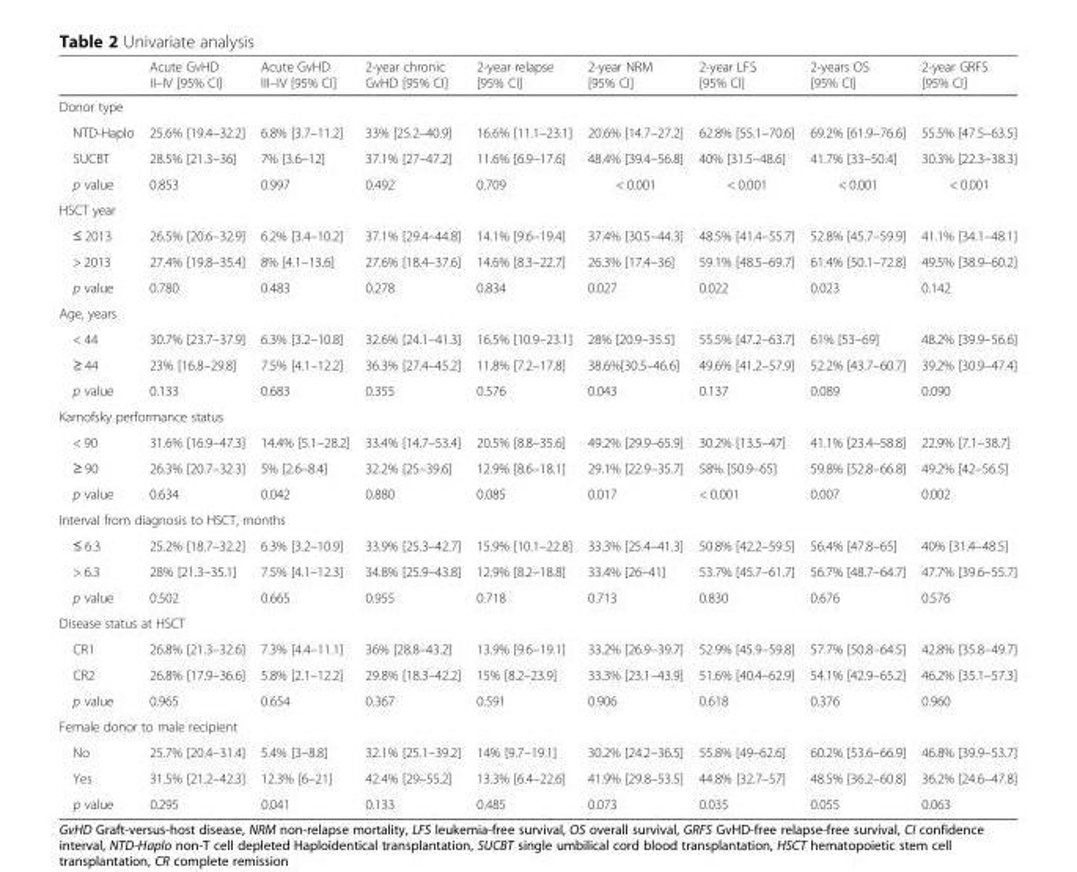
<table><thead><tr><td></td><td>Acute GvHD II–IV [95% CI]</td><td>Acute GvHD III–IV [95% CI]</td><td>2-year chronic GvHD [95% CI]</td><td>2-year relapse [95% CI]</td><td>2-year NRM [95% CI]</td><td>2-year LFS [95% CI]</td><td>2-years OS [95% CI]</td><td>2-year GRFS [95% CI]</td></tr></thead><tbody><tr><td colspan="9">Donor type</td></tr><tr><td>NTD-Haplo</td><td>25.6% [19.4–32.2]</td><td>6.8% [3.7–11.2]</td><td>33% [25.2–40.9]</td><td>16.6% [11.1–23.1]</td><td>20.6% [14.7–27.2]</td><td>62.8% [55.1–70.6]</td><td>69.2% [61.9–76.6]</td><td>55.5% [47.5–63.5]</td></tr><tr><td>SUCBT</td><td>28.5% [21.3–36]</td><td>7% [3.6–12]</td><td>37.1% [27–47.2]</td><td>11.6% [6.9–17.6]</td><td>48.4% [39.4–56.8]</td><td>40% [31.5–48.6]</td><td>41.7% [33–50.4]</td><td>30.3% [22.3–38.3]</td></tr><tr><td>p value</td><td>0.853</td><td>0.997</td><td>0.492</td><td>0.709</td><td>&lt; 0.001</td><td>&lt; 0.001</td><td>&lt; 0.001</td><td>&lt; 0.001</td></tr><tr><td colspan="9">HSCT year</td></tr><tr><td>≤ 2013</td><td>26.5% [20.6–32.9]</td><td>6.2% [3.4–10.2]</td><td>37.1% [29.4–44.8]</td><td>14.1% [9.6–19.4]</td><td>37.4% [30.5–44.3]</td><td>48.5% [41.4–55.7]</td><td>52.8% [45.7–59.9]</td><td>41.1% [34.1–48.1]</td></tr><tr><td>&gt; 2013</td><td>27.4% [19.8–35.4]</td><td>8% [4.1–13.6]</td><td>27.6% [18.4–37.6]</td><td>14.6% [8.3–22.7]</td><td>26.3% [17.4–36]</td><td>59.1% [48.5–69.7]</td><td>61.4% [50.1–72.8]</td><td>49.5% [38.9–60.2]</td></tr><tr><td>p value</td><td>0.780</td><td>0.483</td><td>0.278</td><td>0.834</td><td>0.027</td><td>0.022</td><td>0.023</td><td>0.142</td></tr><tr><td colspan="9">Age, years</td></tr><tr><td>&lt; 44</td><td>30.7% [23.7–37.9]</td><td>6.3% [3.2–10.8]</td><td>32.6% [24.1–41.3]</td><td>16.5% [10.9–23.1]</td><td>28% [20.9–35.5]</td><td>55.5% [47.2–63.7]</td><td>61% [53–69]</td><td>48.2% [39.9–56.6]</td></tr><tr><td>≥ 44</td><td>23% [16.8–29.8]</td><td>7.5% [4.1–12.2]</td><td>36.3% [27.4–45.2]</td><td>11.8% [7.2–17.8]</td><td>38.6%[30.5–46.6]</td><td>49.6% [41.2–57.9]</td><td>52.2% [43.7–60.7]</td><td>39.2% [30.9–47.4]</td></tr><tr><td>p value</td><td>0.133</td><td>0.683</td><td>0.355</td><td>0.576</td><td>0.043</td><td>0.137</td><td>0.089</td><td>0.090</td></tr><tr><td colspan="9">Karnofsky performance status</td></tr><tr><td>&lt; 90</td><td>31.6% [16.9–47.3]</td><td>14.4% [5.1–28.2]</td><td>33.4% [14.7–53.4]</td><td>20.5% [8.8–35.6]</td><td>49.2% [29.9–65.9]</td><td>30.2% [13.5–47]</td><td>41.1% [23.4–58.8]</td><td>22.9% [7.1–38.7]</td></tr><tr><td>≥ 90</td><td>26.3% [20.7–32.3]</td><td>5% [2.6–8.4]</td><td>32.2% [25–39.6]</td><td>12.9% [8.6–18.1]</td><td>29.1% [22.9–35.7]</td><td>58% [50.9–65]</td><td>59.8% [52.8–66.8]</td><td>49.2% [42–56.5]</td></tr><tr><td>p value</td><td>0.634</td><td>0.042</td><td>0.880</td><td>0.085</td><td>0.017</td><td>&lt; 0.001</td><td>0.007</td><td>0.002</td></tr><tr><td colspan="9">Interval from diagnosis to HSCT, months</td></tr><tr><td>≤ 6.3</td><td>25.2% [18.7–32.2]</td><td>6.3% [3.2–10.9]</td><td>33.9% [25.3–42.7]</td><td>15.9% [10.1–22.8]</td><td>33.3% [25.4–41.3]</td><td>50.8% [42.2–59.5]</td><td>56.4% [47.8–65]</td><td>40% [31.4–48.5]</td></tr><tr><td>&gt; 6.3</td><td>28% [21.3–35.1]</td><td>7.5% [4.1–12.3]</td><td>34.8% [25.9–43.8]</td><td>12.9% [8.2–18.8]</td><td>33.4% [26–41]</td><td>53.7% [45.7–61.7]</td><td>56.7% [48.7–64.7]</td><td>47.7% [39.6–55.7]</td></tr><tr><td>p value</td><td>0.502</td><td>0.665</td><td>0.955</td><td>0.718</td><td>0.713</td><td>0.830</td><td>0.676</td><td>0.576</td></tr><tr><td colspan="9">Disease status at HSCT</td></tr><tr><td>CR1</td><td>26.8% [21.3–32.6]</td><td>7.3% [4.4–11.1]</td><td>36% [28.8–43.2]</td><td>13.9% [9.6–19.1]</td><td>33.2% [26.9–39.7]</td><td>52.9% [45.9–59.8]</td><td>57.7% [50.8–64.5]</td><td>42.8% [35.8–49.7]</td></tr><tr><td>CR2</td><td>26.8% [17.9–36.6]</td><td>5.8% [2.1–12.2]</td><td>29.8% [18.3–42.2]</td><td>15% [8.2–23.9]</td><td>33.3% [23.1–43.9]</td><td>51.6% [40.4–62.9]</td><td>54.1% [42.9–65.2]</td><td>46.2% [35.1–57.3]</td></tr><tr><td>p value</td><td>0.965</td><td>0.654</td><td>0.367</td><td>0.591</td><td>0.906</td><td>0.618</td><td>0.376</td><td>0.960</td></tr><tr><td colspan="9">Female donor to male recipient</td></tr><tr><td>No</td><td>25.7% [20.4–31.4]</td><td>5.4% [3–8.8]</td><td>32.1% [25.1–39.2]</td><td>14% [9.7–19.1]</td><td>30.2% [24.2–36.5]</td><td>55.8% [49–62.6]</td><td>60.2% [53.6–66.9]</td><td>46.8% [39.9–53.7]</td></tr><tr><td>Yes</td><td>31.5% [21.2–42.3]</td><td>12.3% [6–21]</td><td>42.4% [29–55.2]</td><td>13.3% [6.4–22.6]</td><td>41.9% [29.8–53.5]</td><td>44.8% [32.7–57]</td><td>48.5% [36.2–60.8]</td><td>36.2% [24.6–47.8]</td></tr><tr><td>p value</td><td>0.295</td><td>0.041</td><td>0.133</td><td>0.485</td><td>0.073</td><td>0.035</td><td>0.055</td><td>0.063</td></tr></tbody></table>